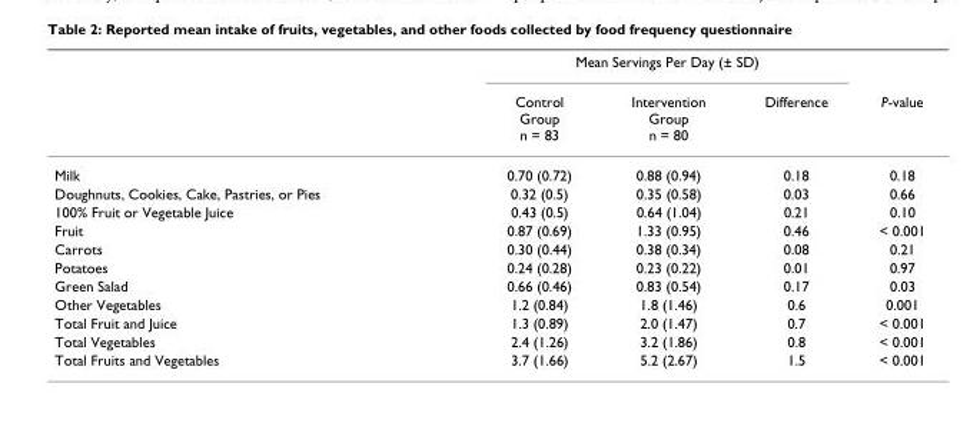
<table><thead><tr><td rowspan="2"></td><td colspan="3">Mean Servings Per Day (± SD)</td><td rowspan="2">P-value</td></tr><tr><td>Control Group n = 83</td><td>Intervention Group n = 80</td><td>Difference</td></tr></thead><tbody><tr><td>Milk</td><td>0.70 (0.72)</td><td>0.88 (0.94)</td><td>0.18</td><td>0.18</td></tr><tr><td>Doughnuts, Cookies, Cake, Pastries, or Pies</td><td>0.32 (0.5)</td><td>0.35 (0.58)</td><td>0.03</td><td>0.66</td></tr><tr><td>100% Fruit or Vegetable Juice</td><td>0.43 (0.5)</td><td>0.64 (1.04)</td><td>0.21</td><td>0.10</td></tr><tr><td>Fruit</td><td>0.87 (0.69)</td><td>1.33 (0.95)</td><td>0.46</td><td>&lt; 0.001</td></tr><tr><td>Carrots</td><td>0.30 (0.44)</td><td>0.38 (0.34)</td><td>0.08</td><td>0.21</td></tr><tr><td>Potatoes</td><td>0.24 (0.28)</td><td>0.23 (0.22)</td><td>0.01</td><td>0.97</td></tr><tr><td>Green Salad</td><td>0.66 (0.46)</td><td>0.83 (0.54)</td><td>0.17</td><td>0.03</td></tr><tr><td>Other Vegetables</td><td>1.2 (0.84)</td><td>1.8 (1.46)</td><td>0.6</td><td>0.001</td></tr><tr><td>Total Fruit and Juice</td><td>1.3 (0.89)</td><td>2.0 (1.47)</td><td>0.7</td><td>&lt; 0.001</td></tr><tr><td>Total Vegetables</td><td>2.4 (1.26)</td><td>3.2 (1.86)</td><td>0.8</td><td>&lt; 0.001</td></tr><tr><td>Total Fruits and Vegetables</td><td>3.7 (1.66)</td><td>5.2 (2.67)</td><td>1.5</td><td>&lt; 0.001</td></tr></tbody></table>